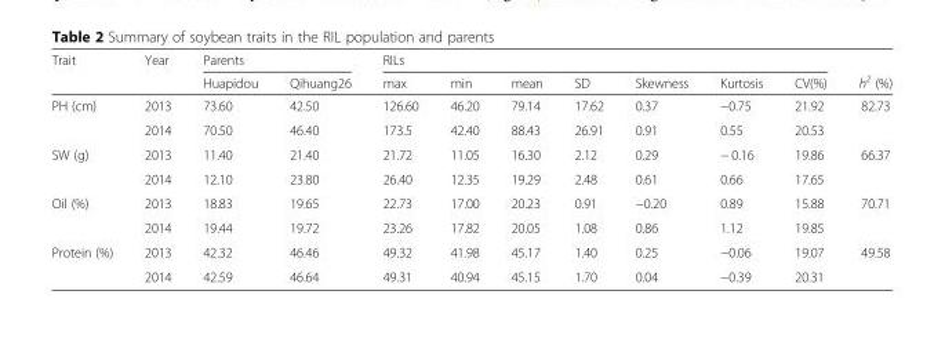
<table><thead><tr><td rowspan="2">Trait</td><td rowspan="2">Year</td><td colspan="2">Parents</td><td colspan="7">RILs</td><td rowspan="2">h<sup>2</sup> (%)</td></tr><tr><td>Huapidou</td><td>Qihuang26</td><td>max</td><td>min</td><td>mean</td><td>SD</td><td>Skewness</td><td>Kurtosis</td><td>CV(%)</td></tr></thead><tbody><tr><td rowspan="2">PH (cm)</td><td>2013</td><td>73.60</td><td>42.50</td><td>126.60</td><td>46.20</td><td>79.14</td><td>17.62</td><td>0.37</td><td>−0.75</td><td>21.92</td><td>82.73</td></tr><tr><td>2014</td><td>70.50</td><td>46.40</td><td>173.5</td><td>42.40</td><td>88.43</td><td>26.91</td><td>0.91</td><td>0.55</td><td>20.53</td><td></td></tr><tr><td rowspan="2">SW (g)</td><td>2013</td><td>11.40</td><td>21.40</td><td>21.72</td><td>11.05</td><td>16.30</td><td>2.12</td><td>0.29</td><td>− 0.16</td><td>19.86</td><td>66.37</td></tr><tr><td>2014</td><td>12.10</td><td>23.80</td><td>26.40</td><td>12.35</td><td>19.29</td><td>2.48</td><td>0.61</td><td>0.66</td><td>17.65</td><td></td></tr><tr><td rowspan="2">Oil (%)</td><td>2013</td><td>18.83</td><td>19.65</td><td>22.73</td><td>17.00</td><td>20.23</td><td>0.91</td><td>−0.20</td><td>0.89</td><td>15.88</td><td>70.71</td></tr><tr><td>2014</td><td>19.44</td><td>19.72</td><td>23.26</td><td>17.82</td><td>20.05</td><td>1.08</td><td>0.86</td><td>1.12</td><td>19.85</td><td></td></tr><tr><td rowspan="2">Protein (%)</td><td>2013</td><td>42.32</td><td>46.46</td><td>49.32</td><td>41.98</td><td>45.17</td><td>1.40</td><td>0.25</td><td>−0.06</td><td>19.07</td><td>49.58</td></tr><tr><td>2014</td><td>42.59</td><td>46.64</td><td>49.31</td><td>40.94</td><td>45.15</td><td>1.70</td><td>0.04</td><td>−0.39</td><td>20.31</td><td></td></tr></tbody></table>